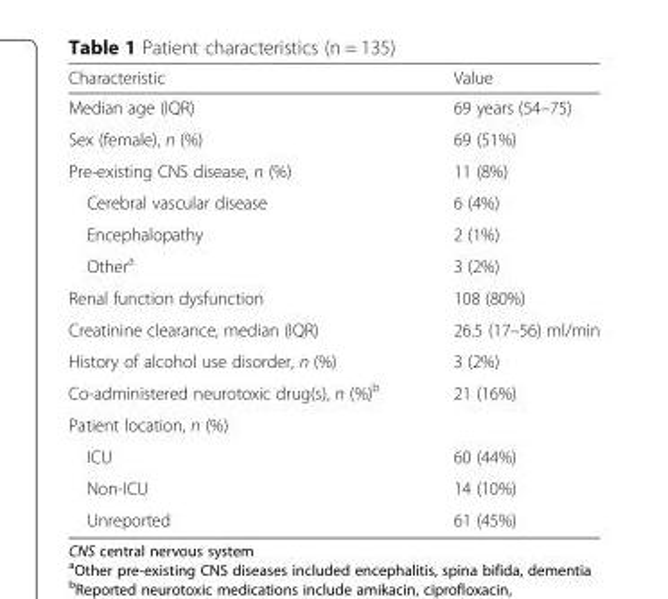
<table><thead><tr><td>Characteristic</td><td>Value</td></tr></thead><tbody><tr><td>Median age (IQR)</td><td>69 years (54–75)</td></tr><tr><td>Sex (female), n (%)</td><td>69 (51%)</td></tr><tr><td>Pre-existing CNS disease, n (%)</td><td>11 (8%)</td></tr><tr><td>Cerebral vascular disease</td><td>6 (4%)</td></tr><tr><td>Encephalopathy</td><td>2 (1%)</td></tr><tr><td>Other<sup>a</sup></td><td>3 (2%)</td></tr><tr><td>Renal function dysfunction</td><td>108 (80%)</td></tr><tr><td>Creatinine clearance, median (IQR)</td><td>26.5 (17–56) ml/min</td></tr><tr><td>History of alcohol use disorder, n (%)</td><td>3 (2%)</td></tr><tr><td>Co-administered neurotoxic drug(s), n (%)<sup>b</sup></td><td>21 (16%)</td></tr><tr><td colspan="2">Patient location, n (%)</td></tr><tr><td>ICU</td><td>60 (44%)</td></tr><tr><td>Non-ICU</td><td>14 (10%)</td></tr><tr><td>Unreported</td><td>61 (45%)</td></tr></tbody></table>